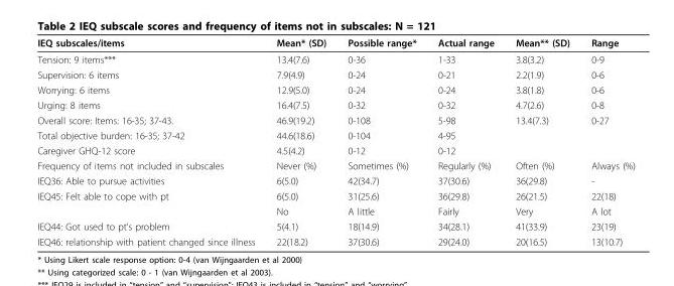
<table><thead><tr><td>IEQ subscales/items</td><td>Mean* (SD)</td><td>Possible range*</td><td>Actual range</td><td>Mean** (SD)</td><td>Range</td></tr></thead><tbody><tr><td>Tension: 9 items***</td><td>13.4(7.6)</td><td>0-36</td><td>1-33</td><td>3.8(3.2)</td><td>0-9</td></tr><tr><td>Supervision: 6 items</td><td>7.9(4.9)</td><td>0-24</td><td>0-21</td><td>2.2(1.9)</td><td>0-6</td></tr><tr><td>Worrying: 6 items</td><td>12.9(5.0)</td><td>0-24</td><td>0-24</td><td>3.8(1.8)</td><td>0-6</td></tr><tr><td>Urging: 8 items</td><td>16.4(7.5)</td><td>0-32</td><td>0-32</td><td>4.7(2.6)</td><td>0-8</td></tr><tr><td>Overall score: Items: 16-35; 37-43.</td><td>46.9(19.2)</td><td>0-108</td><td>5-98</td><td>13.4(7.3)</td><td>0-27</td></tr><tr><td>Total objective burden: 16-35; 37-42</td><td>44.6(18.6)</td><td>0-104</td><td>4-95</td><td></td><td></td></tr><tr><td>Caregiver GHQ-12 score</td><td>4.5(4.2)</td><td>0-12</td><td>0-12</td><td></td><td></td></tr><tr><td>Frequency of items not included in subscales</td><td>Never (%)</td><td>Sometimes (%)</td><td>Regularly (%)</td><td>Often (%)</td><td>Always (%)</td></tr><tr><td>IEQ36: Able to pursue activities</td><td>6(5.0)</td><td>42(34.7)</td><td>37(30.6)</td><td>36(29.8)</td><td>-</td></tr><tr><td rowspan="2">IEQ45: Felt able to cope with pt</td><td>6(5.0)</td><td>31(25.6)</td><td>36(29.8)</td><td>26(21.5)</td><td>22(18)</td></tr><tr><td>No</td><td>A little</td><td>Fairly</td><td>Very</td><td>A lot</td></tr><tr><td>IEQ44: Got used to pt’s problem</td><td>5(4.1)</td><td>18(14.9)</td><td>34(28.1)</td><td>41(33.9)</td><td>23(19)</td></tr><tr><td>IEQ46: relationship with patient changed since illness</td><td>22(18.2)</td><td>37(30.6)</td><td>29(24.0)</td><td>20(16.5)</td><td>13(10.7)</td></tr></tbody></table>